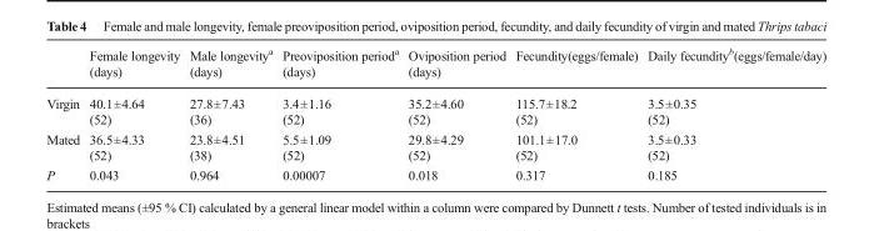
<table><thead><tr><td></td><td>Female longevity (days)</td><td>Male longevity<sup>a</sup> (days)</td><td>Preoviposition period<sup>a</sup> (days)</td><td>Oviposition period (days)</td><td>Fecundity(eggs/female)</td><td>Daily fecundity<sup>b</sup>(eggs/female/day)</td></tr></thead><tbody><tr><td>Virgin</td><td>40.1±4.64 (52)</td><td>27.8±7.43 (36)</td><td>3.4±1.16 (52)</td><td>35.2±4.60 (52)</td><td>115.7±18.2 (52)</td><td>3.5±0.35 (52)</td></tr><tr><td>Mated</td><td>36.5±4.33 (52)</td><td>23.8±4.51 (38)</td><td>5.5±1.09 (52)</td><td>29.8±4.29 (52)</td><td>101.1±17.0 (52)</td><td>3.5±0.33 (52)</td></tr><tr><td>P</td><td>0.043</td><td>0.964</td><td>0.00007</td><td>0.018</td><td>0.317</td><td>0.185</td></tr></tbody></table>